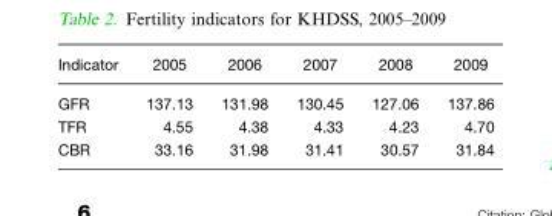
<table><thead><tr><td>Indicator</td><td>2005</td><td>2006</td><td>2007</td><td>2008</td><td>2009</td></tr></thead><tbody><tr><td>GFR</td><td>137.13</td><td>131.98</td><td>130.45</td><td>127.06</td><td>137.86</td></tr><tr><td>TFR</td><td>4.55</td><td>4.38</td><td>4.33</td><td>4.23</td><td>4.70</td></tr><tr><td>CBR</td><td>33.16</td><td>31.98</td><td>31.41</td><td>30.57</td><td>31.84</td></tr></tbody></table>